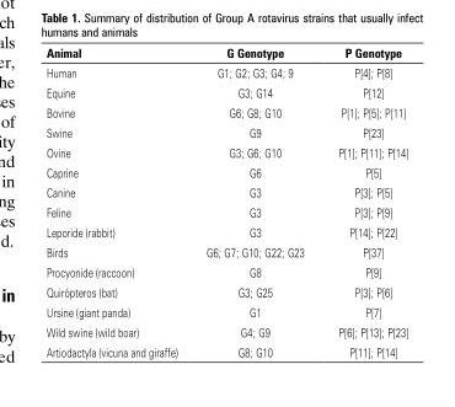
<table><thead><tr><td>Animal</td><td>G Genotype</td><td>P Genotype</td></tr></thead><tbody><tr><td>Human</td><td>G1; G2; G3; G4; 9</td><td>P[4]; P[8]</td></tr><tr><td>Equine</td><td>G3; G14</td><td>P[12]</td></tr><tr><td>Bovine</td><td>G6; G8; G10</td><td>P[1]; P[5]; P[11]</td></tr><tr><td>Swine</td><td>G9</td><td>P[23]</td></tr><tr><td>Ovine</td><td>G3; G6; G10</td><td>P[1]; P[11]; P[14]</td></tr><tr><td>Caprine</td><td>G6</td><td>P[5]</td></tr><tr><td>Canine</td><td>G3</td><td>P[3]; P[5]</td></tr><tr><td>Feline</td><td>G3</td><td>P[3]; P[9]</td></tr><tr><td>Leporide (rabbit)</td><td>G3</td><td>P[14]; P[22]</td></tr><tr><td>Birds</td><td>G6; G7; G10; G22; G23</td><td>P[37]</td></tr><tr><td>Procyonide (raccoon)</td><td>G8</td><td>P[9]</td></tr><tr><td>Quirópteros (bat)</td><td>G3; G25</td><td>P[3]; P[6]</td></tr><tr><td>Ursine (giant panda)</td><td>G1</td><td>P[7]</td></tr><tr><td>Wild swine (wild boar)</td><td>G4; G9</td><td>P[6]; P[13]; P[23]</td></tr><tr><td>Artiodactyla (vicuna and giraffe)</td><td>G8; G10</td><td>P[11]; P[14]</td></tr></tbody></table>